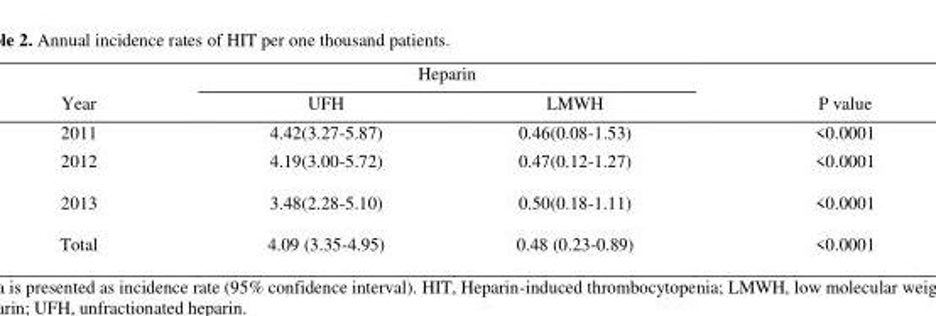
<table><thead><tr><td rowspan="2">Year</td><td colspan="2">Heparin</td><td rowspan="2">P value</td></tr><tr><td>UFH</td><td>LMWH</td></tr></thead><tbody><tr><td>2011</td><td>4.42(3.27-5.87)</td><td>0.46(0.08-1.53)</td><td>&lt;0.0001</td></tr><tr><td>2012</td><td>4.19(3.00-5.72)</td><td>0.47(0.12-1.27)</td><td>&lt;0.0001</td></tr><tr><td>2013</td><td>3.48(2.28-5.10)</td><td>0.50(0.18-1.11)</td><td>&lt;0.0001</td></tr><tr><td>Total</td><td>4.09 (3.35-4.95)</td><td>0.48 (0.23-0.89)</td><td>&lt;0.0001</td></tr></tbody></table>